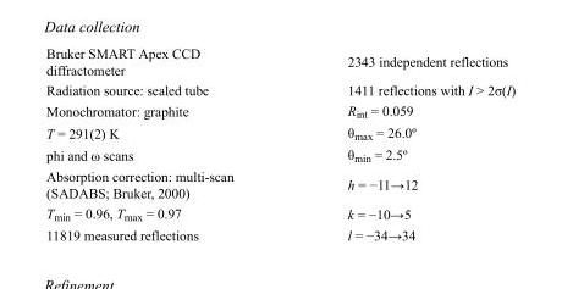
<table><tbody><tr><td>Bruker SMART Apex CCD diffractometer</td><td>2343 independent reflections</td></tr><tr><td>Radiation source: sealed tube</td><td>1411 reflections with I &gt; 2σ(I)</td></tr><tr><td>Monochromator: graphite</td><td>R<sub>int</sub> = 0.059</td></tr><tr><td>T = 291(2) K</td><td>θ<sub>max</sub> = 26.0º</td></tr><tr><td>phi and ω scans</td><td>θ<sub>min</sub> = 2.5º</td></tr><tr><td>Absorption correction: multi-scan (SADABS; Bruker, 2000)</td><td>h = −11→12</td></tr><tr><td>T<sub>min</sub> = 0.96, T<sub>max</sub> = 0.97</td><td>k = −10→5</td></tr><tr><td>11819 measured reflections</td><td>l = −34→34</td></tr></tbody></table>